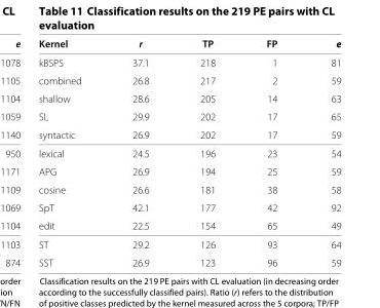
<table><thead><tr><td>Kernel</td><td>r</td><td>TP</td><td>FP</td><td>e</td></tr></thead><tbody><tr><td>kBSPS</td><td>37.1</td><td>218</td><td>1</td><td>81</td></tr><tr><td>combined</td><td>26.8</td><td>217</td><td>2</td><td>59</td></tr><tr><td>shallow</td><td>28.6</td><td>205</td><td>14</td><td>63</td></tr><tr><td>SL</td><td>29.9</td><td>202</td><td>17</td><td>65</td></tr><tr><td>syntactic</td><td>26.9</td><td>202</td><td>17</td><td>59</td></tr><tr><td>lexical</td><td>24.5</td><td>196</td><td>23</td><td>54</td></tr><tr><td>APG</td><td>26.9</td><td>194</td><td>25</td><td>59</td></tr><tr><td>cosine</td><td>26.6</td><td>181</td><td>38</td><td>58</td></tr><tr><td>SpT</td><td>42.1</td><td>177</td><td>42</td><td>92</td></tr><tr><td>edit</td><td>22.5</td><td>154</td><td>65</td><td>49</td></tr><tr><td>ST</td><td>29.2</td><td>126</td><td>93</td><td>64</td></tr><tr><td>SST</td><td>26.9</td><td>123</td><td>96</td><td>59</td></tr></tbody></table>